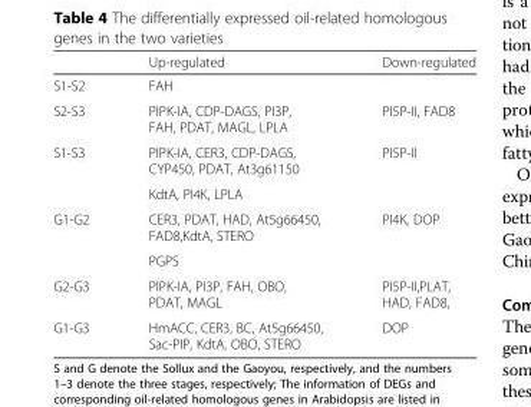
<table><thead><tr><td></td><td>Up-regulated</td><td>Down-regulated</td></tr></thead><tbody><tr><td>S1-S2</td><td>FAH</td><td></td></tr><tr><td>S2-S3</td><td>PIPK-IA, CDP-DAGS, PI3P, FAH, PDAT, MAGL, LPLA</td><td>PI5P-II, FAD8</td></tr><tr><td rowspan="2">S1-S3</td><td>PIPK-IA, CER3, CDP-DAGS, CYP450, PDAT, At3g61150</td><td rowspan="2">PI5P-II</td></tr><tr><td>KdtA, PI4K, LPLA</td></tr><tr><td rowspan="2">G1-G2</td><td>CER3, PDAT, HAD, At5g66450, FAD8,KdtA, STERO</td><td rowspan="2">PI4K, DOP</td></tr><tr><td>PGPS</td></tr><tr><td>G2-G3</td><td>PIPK-IA, PI3P, FAH, OBO, PDAT, MAGL</td><td>PI5P-II,PLAT, HAD, FAD8,</td></tr><tr><td>G1-G3</td><td>HmACC, CER3, BC, At5g66450, Sac-PIP, KdtA, OBO, STERO</td><td>DOP</td></tr></tbody></table>